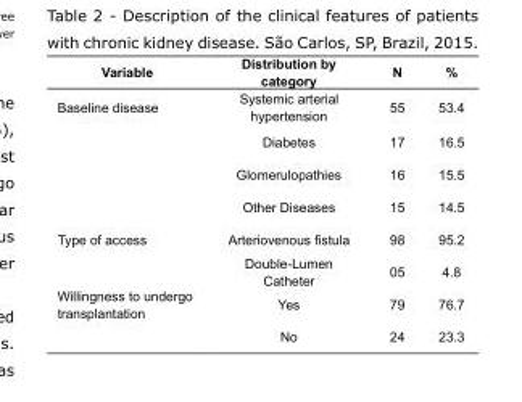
<table><tbody><tr><td>Variable</td><td>Distribution by category</td><td>N</td><td>%</td></tr><tr><td rowspan="4">Baseline disease</td><td>Systemic arterial hypertension</td><td>55</td><td>53.4</td></tr><tr><td>Diabetes</td><td>17</td><td>16.5</td></tr><tr><td>Glomerulopathies</td><td>16</td><td>15.5</td></tr><tr><td>Other Diseases</td><td>15</td><td>14.5</td></tr><tr><td rowspan="2">Type of access</td><td>Arteriovenous fistula</td><td>98</td><td>95.2</td></tr><tr><td>Double-Lumen Catheter</td><td>05</td><td>4.8</td></tr><tr><td rowspan="2">Willingness to undergo transplantation</td><td>Yes</td><td>79</td><td>76.7</td></tr><tr><td>No</td><td>24</td><td>23.3</td></tr></tbody></table>